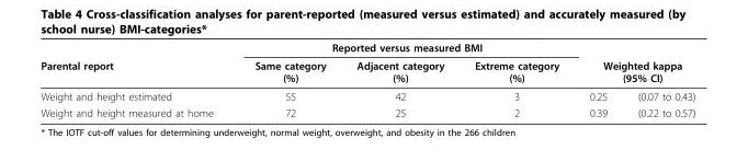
<table><thead><tr><td rowspan="2">Parental report</td><td colspan="3">Reported versus measured BMI</td><td></td><td></td></tr><tr><td>Same category (%)</td><td>Adjacent category (%)</td><td>Extreme category (%)</td><td colspan="2">Weighted kappa (95% CI)</td></tr></thead><tbody><tr><td>Weight and height estimated</td><td>55</td><td>42</td><td>3</td><td>0.25</td><td>(0.07 to 0.43)</td></tr><tr><td>Weight and height measured at home</td><td>72</td><td>25</td><td>2</td><td>0.39</td><td>(0.22 to 0.57)</td></tr></tbody></table>